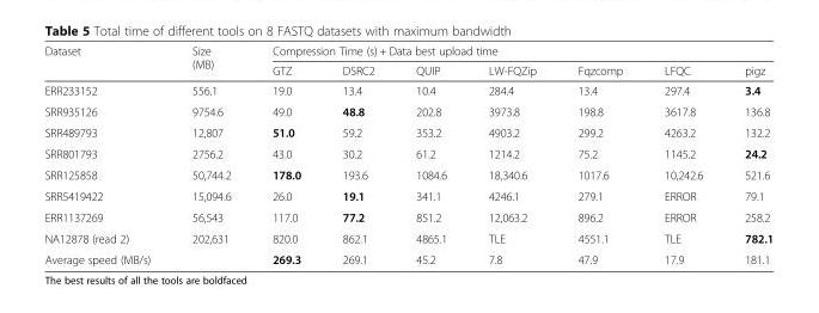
<table><thead><tr><td rowspan="2">Dataset</td><td rowspan="2">Size (MB)</td><td colspan="7">Compression Time (s) + Data best upload time</td></tr><tr><td>GTZ</td><td>DSRC2</td><td>QUIP</td><td>LW-FQZip</td><td>Fqzcomp</td><td>LFQC</td><td>pigz</td></tr></thead><tbody><tr><td>ERR233152</td><td>556.1</td><td>19.0</td><td>13.4</td><td>10.4</td><td>284.4</td><td>13.4</td><td>297.4</td><td>3.4</td></tr><tr><td>SRR935126</td><td>9754.6</td><td>49.0</td><td>48.8</td><td>202.8</td><td>3973.8</td><td>198.8</td><td>3617.8</td><td>136.8</td></tr><tr><td>SRR489793</td><td>12,807</td><td>51.0</td><td>59.2</td><td>353.2</td><td>4903.2</td><td>299.2</td><td>4263.2</td><td>132.2</td></tr><tr><td>SRR801793</td><td>2756.2</td><td>43.0</td><td>30.2</td><td>61.2</td><td>1214.2</td><td>75.2</td><td>1145.2</td><td>24.2</td></tr><tr><td>SRR125858</td><td>50,744.2</td><td>178.0</td><td>193.6</td><td>1084.6</td><td>18,340.6</td><td>1017.6</td><td>10,242.6</td><td>521.6</td></tr><tr><td>SRR5419422</td><td>15,094.6</td><td>26.0</td><td>19.1</td><td>341.1</td><td>4246.1</td><td>279.1</td><td>ERROR</td><td>79.1</td></tr><tr><td>ERR1137269</td><td>56,543</td><td>117.0</td><td>77.2</td><td>851.2</td><td>12,063.2</td><td>896.2</td><td>ERROR</td><td>258.2</td></tr><tr><td>NA12878 (read 2)</td><td>202,631</td><td>820.0</td><td>862.1</td><td>4865.1</td><td>TLE</td><td>4551.1</td><td>TLE</td><td>782.1</td></tr><tr><td>Average speed (MB/s)</td><td></td><td>269.3</td><td>269.1</td><td>45.2</td><td>7.8</td><td>47.9</td><td>17.9</td><td>181.1</td></tr></tbody></table>